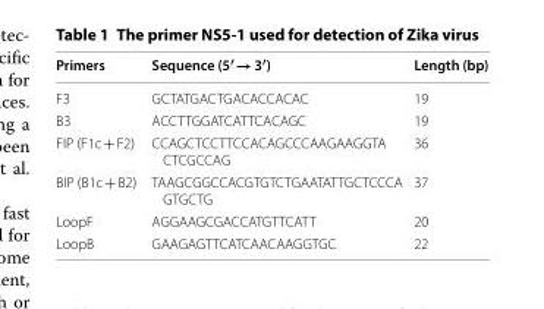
<table><thead><tr><td>Primers</td><td>Sequence (5′ → 3′)</td><td>Length (bp)</td></tr></thead><tbody><tr><td>F3</td><td>GCTATGACTGACACCACAC</td><td>19</td></tr><tr><td>B3</td><td>ACCTTGGATCATTCACAGC</td><td>19</td></tr><tr><td>FIP (F1c + F2)</td><td>CCAGCTCCTTCCACAGCCCAAGAAGGTA CTCGCCAG</td><td>36</td></tr><tr><td>BIP (B1c + B2)</td><td>TAAGCGGCCACGTGTCTGAATATTGCTCCCA GTGCTG</td><td>37</td></tr><tr><td>LoopF</td><td>AGGAAGCGACCATGTTCATT</td><td>20</td></tr><tr><td>LoopB</td><td>GAAGAGTTCATCAACAAGGTGC</td><td>22</td></tr></tbody></table>